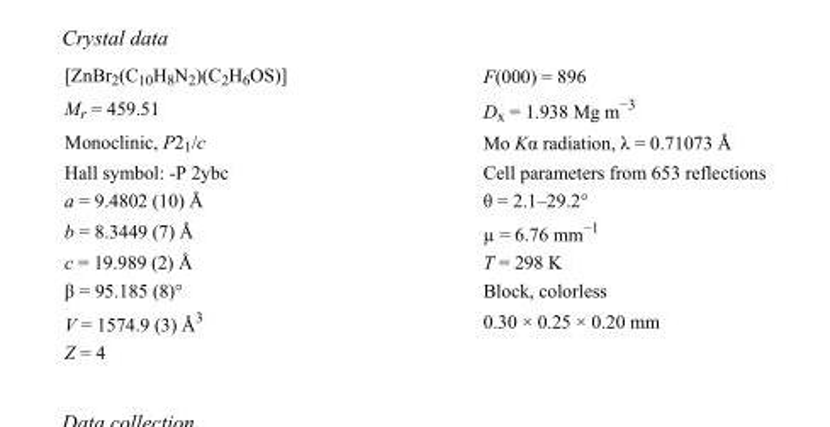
<table><tbody><tr><td>[ZnBr<sub>2</sub>(C<sub>10</sub>H<sub>8</sub>N<sub>2</sub>)(C<sub>2</sub>H<sub>6</sub>OS)]</td><td>F(000) = 896</td></tr><tr><td>M<sub>r</sub> = 459.51</td><td>D<sub>x</sub> = 1.938 Mg m<sup>−3</sup></td></tr><tr><td>Monoclinic, P2<sub>1</sub>/c</td><td>Mo Kα radiation, λ = 0.71073 Å</td></tr><tr><td>Hall symbol: -P 2ybc</td><td>Cell parameters from 653 reflections</td></tr><tr><td>a = 9.4802 (10) Å</td><td>θ = 2.1–29.2°</td></tr><tr><td>b = 8.3449 (7) Å</td><td>µ = 6.76 mm<sup>−1</sup></td></tr><tr><td>c = 19.989 (2) Å</td><td>T = 298 K</td></tr><tr><td>β = 95.185 (8)°</td><td>Block, colorless</td></tr><tr><td>V = 1574.9 (3) Å<sup>3</sup></td><td>0.30 × 0.25 × 0.20 mm</td></tr><tr><td>Z = 4</td><td></td></tr></tbody></table>